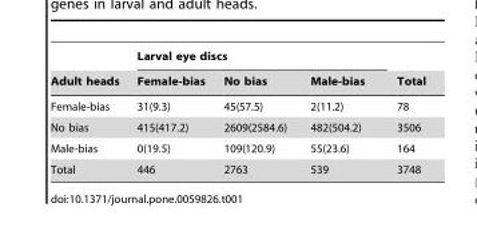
<table><thead><tr><td rowspan="2">Adult heads</td><td colspan="3">Larval eye discs</td><td rowspan="2">Total</td></tr><tr><td>Female-bias</td><td>No bias</td><td>Male-bias</td></tr></thead><tbody><tr><td>Female-bias</td><td>31(9.3)</td><td>45(57.5)</td><td>2(11.2)</td><td>78</td></tr><tr><td>No bias</td><td>415(417.2)</td><td>2609(2584.6)</td><td>482(504.2)</td><td>3506</td></tr><tr><td>Male-bias</td><td>0(19.5)</td><td>109(120.9)</td><td>55(23.6)</td><td>164</td></tr><tr><td>Total</td><td>446</td><td>2763</td><td>539</td><td>3748</td></tr></tbody></table>